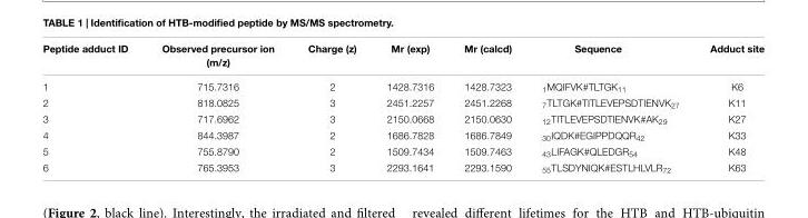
<table><thead><tr><td>Peptide adduct ID</td><td>Observed precursor ion (m/z)</td><td>Charge (z)</td><td>Mr (exp)</td><td>Mr (calcd)</td><td>Sequence</td><td>Adduct site</td></tr></thead><tbody><tr><td>1</td><td>715.7316</td><td>2</td><td>1428.7316</td><td>1428.7323</td><td><sub>1</sub>MQIFVK#TLTGK<sub>11</sub></td><td>K6</td></tr><tr><td>2</td><td>818.0825</td><td>3</td><td>2451.2257</td><td>2451.2268</td><td><sub>7</sub>TLTGK#TITLEVEPSDTIENVK<sub>27</sub></td><td>K11</td></tr><tr><td>3</td><td>717.6962</td><td>3</td><td>2150.0668</td><td>2150.0630</td><td><sub>12</sub>TITLEVEPSDTIENVK#AK<sub>29</sub></td><td>K27</td></tr><tr><td>4</td><td>844.3987</td><td>2</td><td>1686.7828</td><td>1686.7849</td><td><sub>30</sub>IQDK#EGIPPDQQR<sub>42</sub></td><td>K33</td></tr><tr><td>5</td><td>755.8790</td><td>2</td><td>1509.7434</td><td>1509.7463</td><td><sub>43</sub>LIFAGK#QLEDGR<sub>54</sub></td><td>K48</td></tr><tr><td>6</td><td>765.3953</td><td>3</td><td>2293.1641</td><td>2293.1590</td><td><sub>55</sub>TLSDYNIQK#ESTLHLVLR<sub>72</sub></td><td>K63</td></tr></tbody></table>